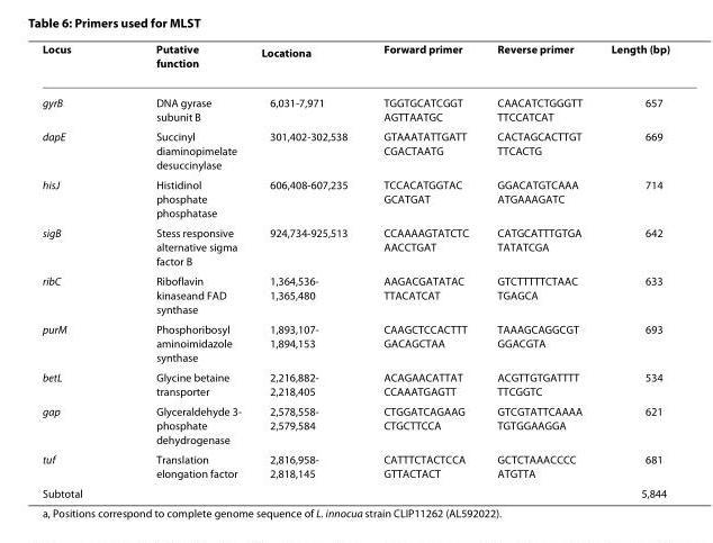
<table><thead><tr><td>Locus</td><td>Putative function</td><td>Location<sup>a</sup></td><td>Forward primer</td><td>Reverse primer</td><td>Length (bp)</td></tr></thead><tbody><tr><td>gyrB</td><td>DNA gyrase subunit B</td><td>6,031-7,971</td><td>TGGTGCATCGGT AGTTAATGC</td><td>CAACATCTGGGTT TTCCATCAT</td><td>657</td></tr><tr><td>dapE</td><td>Succinyl diaminopimelate desuccinylase</td><td>301,402-302,538</td><td>GTAAATATTGATT CGACTAATG</td><td>CACTAGCACTTGT TTCACTG</td><td>669</td></tr><tr><td>hisJ</td><td>Histidinol phosphate phosphatase</td><td>606,408-607,235</td><td>TCCACATGGTAC GCATGAT</td><td>GGACATGTCAAA ATGAAAGATC</td><td>714</td></tr><tr><td>sigB</td><td>Stess responsive alternative sigma factor B</td><td>924,734-925,513</td><td>CCAAAAGTATCTC AACCTGAT</td><td>CATGCATTTGTGA TATATCGA</td><td>642</td></tr><tr><td>ribC</td><td>Riboflavin kinaseand FAD synthase</td><td>1,364,536- 1,365,480</td><td>AAGACGATATAC TTACATCAT</td><td>GTCTTTTTCTAAC TGAGCA</td><td>633</td></tr><tr><td>purM</td><td>Phosphoribosyl aminoimidazole synthase</td><td>1,893,107- 1,894,153</td><td>CAAGCTCCACTTT GACAGCTAA</td><td>TAAAGCAGGCGT GGACGTA</td><td>693</td></tr><tr><td>betL</td><td>Glycine betaine transporter</td><td>2,216,882- 2,218,405</td><td>ACAGAACATTAT CCAAATGAGTT</td><td>ACGTTGTGATTTT TTCGGTC</td><td>534</td></tr><tr><td>gap</td><td>Glyceraldehyde 3- phosphate dehydrogenase</td><td>2,578,558- 2,579,584</td><td>CTGGATCAGAAG CTGCTTCCA</td><td>GTCGTATTCAAAA TGTGGAAGGA</td><td>621</td></tr><tr><td>tuf</td><td>Translation elongation factor</td><td>2,816,958- 2,818,145</td><td>CATTTCTACTCCA GTTACTACT</td><td>GCTCTAAACCCC ATGTTA</td><td>681</td></tr><tr><td>Subtotal</td><td></td><td></td><td></td><td></td><td>5,844</td></tr></tbody></table>